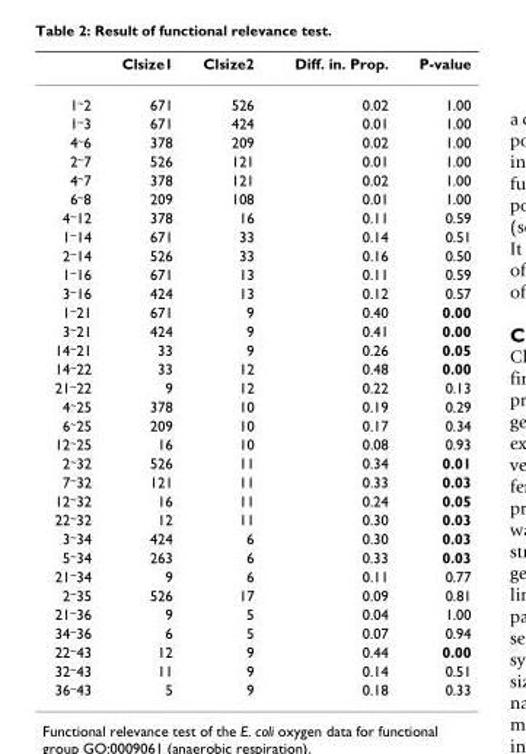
<table><thead><tr><td></td><td>Clsize1</td><td>Clsize2</td><td>Diff. in. Prop.</td><td>P-value</td></tr></thead><tbody><tr><td>1<sup>~</sup>2</td><td>671</td><td>526</td><td>0.02</td><td>1.00</td></tr><tr><td>1<sup>~</sup>3</td><td>671</td><td>424</td><td>0.01</td><td>1.00</td></tr><tr><td>4<sup>~</sup>6</td><td>378</td><td>209</td><td>0.02</td><td>1.00</td></tr><tr><td>2<sup>~</sup>7</td><td>526</td><td>121</td><td>0.01</td><td>1.00</td></tr><tr><td>4<sup>~</sup>7</td><td>378</td><td>121</td><td>0.02</td><td>1.00</td></tr><tr><td>6<sup>~</sup>8</td><td>209</td><td>108</td><td>0.01</td><td>1.00</td></tr><tr><td>4<sup>~</sup>12</td><td>378</td><td>16</td><td>0.11</td><td>0.59</td></tr><tr><td>1<sup>~</sup>14</td><td>671</td><td>33</td><td>0.14</td><td>0.51</td></tr><tr><td>2<sup>~</sup>14</td><td>526</td><td>33</td><td>0.16</td><td>0.50</td></tr><tr><td>1<sup>~</sup>16</td><td>671</td><td>13</td><td>0.11</td><td>0.59</td></tr><tr><td>3<sup>~</sup>16</td><td>424</td><td>13</td><td>0.12</td><td>0.57</td></tr><tr><td>1<sup>~</sup>21</td><td>671</td><td>9</td><td>0.40</td><td>0.00</td></tr><tr><td>3<sup>~</sup>21</td><td>424</td><td>9</td><td>0.41</td><td>0.00</td></tr><tr><td>14<sup>~</sup>21</td><td>33</td><td>9</td><td>0.26</td><td>0.05</td></tr><tr><td>14<sup>~</sup>22</td><td>33</td><td>12</td><td>0.48</td><td>0.00</td></tr><tr><td>21<sup>~</sup>22</td><td>9</td><td>12</td><td>0.22</td><td>0.13</td></tr><tr><td>4<sup>~</sup>25</td><td>378</td><td>10</td><td>0.19</td><td>0.29</td></tr><tr><td>6<sup>~</sup>25</td><td>209</td><td>10</td><td>0.17</td><td>0.34</td></tr><tr><td>12<sup>~</sup>25</td><td>16</td><td>10</td><td>0.08</td><td>0.93</td></tr><tr><td>2<sup>~</sup>32</td><td>526</td><td>11</td><td>0.34</td><td>0.01</td></tr><tr><td>7<sup>~</sup>32</td><td>121</td><td>11</td><td>0.33</td><td>0.03</td></tr><tr><td>12<sup>~</sup>32</td><td>16</td><td>11</td><td>0.24</td><td>0.05</td></tr><tr><td>22<sup>~</sup>32</td><td>12</td><td>11</td><td>0.30</td><td>0.03</td></tr><tr><td>3<sup>~</sup>34</td><td>424</td><td>6</td><td>0.30</td><td>0.03</td></tr><tr><td>5<sup>~</sup>34</td><td>263</td><td>6</td><td>0.33</td><td>0.03</td></tr><tr><td>21<sup>~</sup>34</td><td>9</td><td>6</td><td>0.11</td><td>0.77</td></tr><tr><td>2<sup>~</sup>35</td><td>526</td><td>17</td><td>0.09</td><td>0.81</td></tr><tr><td>21<sup>~</sup>36</td><td>9</td><td>5</td><td>0.04</td><td>1.00</td></tr><tr><td>34<sup>~</sup>36</td><td>6</td><td>5</td><td>0.07</td><td>0.94</td></tr><tr><td>22<sup>~</sup>43</td><td>12</td><td>9</td><td>0.44</td><td>0.00</td></tr><tr><td>32<sup>~</sup>43</td><td>11</td><td>9</td><td>0.14</td><td>0.51</td></tr><tr><td>36<sup>~</sup>43</td><td>5</td><td>9</td><td>0.18</td><td>0.33</td></tr></tbody></table>